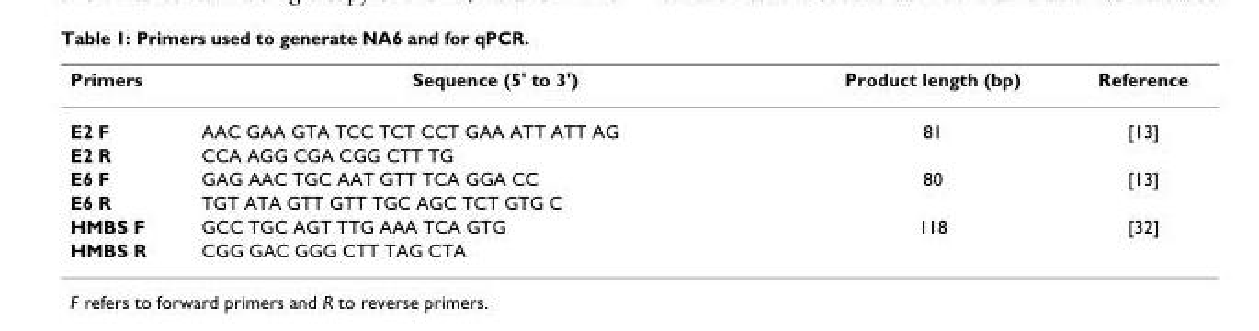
<table><thead><tr><td>Primers</td><td>Sequence (5&#x27; to 3&#x27;)</td><td>Product length (bp)</td><td>Reference</td></tr></thead><tbody><tr><td>E2 F</td><td>AAC GAA GTA TCC TCT CCT GAA ATT ATT AG</td><td>81</td><td>[13]</td></tr><tr><td>E2 R</td><td>CCA AGG CGA CGG CTT TG</td><td></td><td></td></tr><tr><td>E6 F</td><td>GAG AAC TGC AAT GTT TCA GGA CC</td><td>80</td><td>[13]</td></tr><tr><td>E6 R</td><td>TGT ATA GTT GTT TGC AGC TCT GTG C</td><td></td><td></td></tr><tr><td>HMBS F</td><td>GCC TGC AGT TTG AAA TCA GTG</td><td>118</td><td>[32]</td></tr><tr><td>HMBS R</td><td>CGG GAC GGG CTT TAG CTA</td><td></td><td></td></tr></tbody></table>